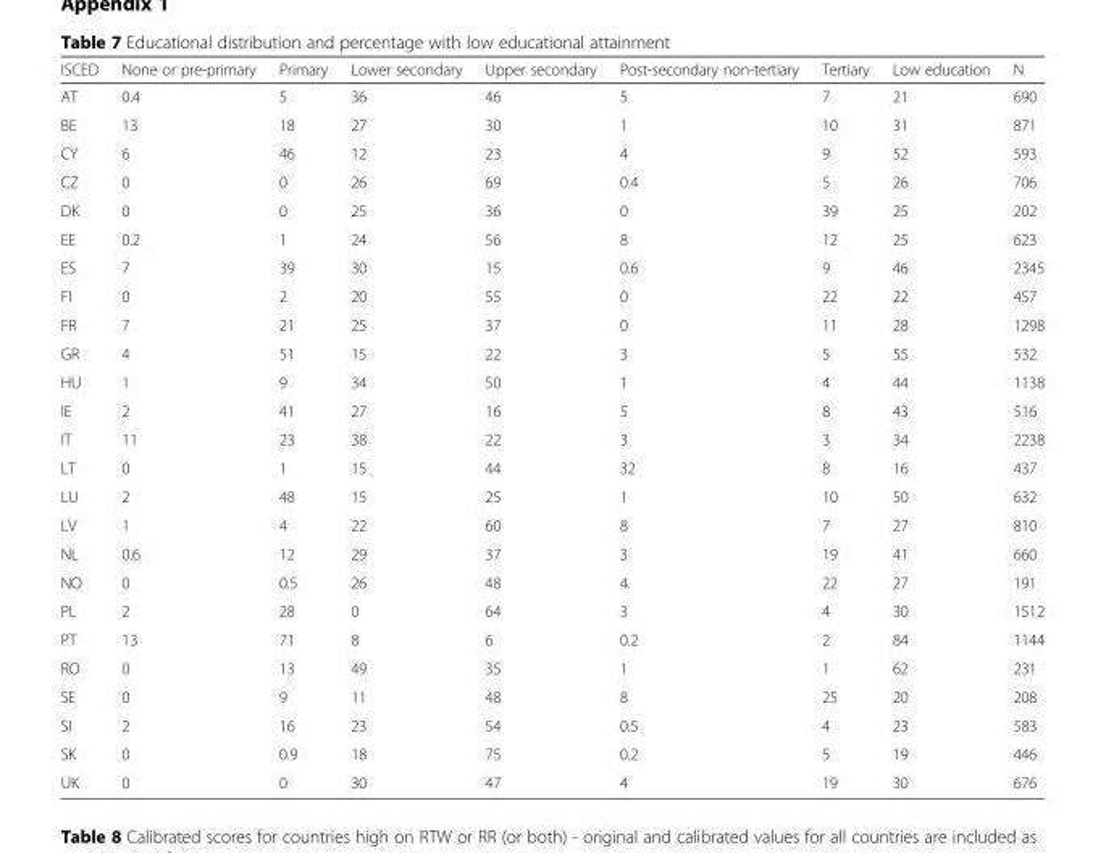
<table><thead><tr><td>ISCED</td><td>None or pre-primary</td><td>Primary</td><td>Lower secondary</td><td>Upper secondary</td><td>Post-secondary non-tertiary</td><td>Tertiary</td><td>Low education</td><td>N</td></tr></thead><tbody><tr><td>AT</td><td>0.4</td><td>5</td><td>36</td><td>46</td><td>5</td><td>7</td><td>21</td><td>690</td></tr><tr><td>BE</td><td>13</td><td>18</td><td>27</td><td>30</td><td>1</td><td>10</td><td>31</td><td>871</td></tr><tr><td>CY</td><td>6</td><td>46</td><td>12</td><td>23</td><td>4</td><td>9</td><td>52</td><td>593</td></tr><tr><td>CZ</td><td>0</td><td>0</td><td>26</td><td>69</td><td>0.4</td><td>5</td><td>26</td><td>706</td></tr><tr><td>DK</td><td>0</td><td>0</td><td>25</td><td>36</td><td>0</td><td>39</td><td>25</td><td>202</td></tr><tr><td>EE</td><td>0.2</td><td>1</td><td>24</td><td>56</td><td>8</td><td>12</td><td>25</td><td>623</td></tr><tr><td>ES</td><td>7</td><td>39</td><td>30</td><td>15</td><td>0.6</td><td>9</td><td>46</td><td>2345</td></tr><tr><td>FI</td><td>0</td><td>2</td><td>20</td><td>55</td><td>0</td><td>22</td><td>22</td><td>457</td></tr><tr><td>FR</td><td>7</td><td>21</td><td>25</td><td>37</td><td>0</td><td>11</td><td>28</td><td>1298</td></tr><tr><td>GR</td><td>4</td><td>51</td><td>15</td><td>22</td><td>3</td><td>5</td><td>55</td><td>532</td></tr><tr><td>HU</td><td>1</td><td>9</td><td>34</td><td>50</td><td>1</td><td>4</td><td>44</td><td>1138</td></tr><tr><td>IE</td><td>2</td><td>41</td><td>27</td><td>16</td><td>5</td><td>8</td><td>43</td><td>516</td></tr><tr><td>IT</td><td>11</td><td>23</td><td>38</td><td>22</td><td>3</td><td>3</td><td>34</td><td>2238</td></tr><tr><td>LT</td><td>0</td><td>1</td><td>15</td><td>44</td><td>32</td><td>8</td><td>16</td><td>437</td></tr><tr><td>LU</td><td>2</td><td>48</td><td>15</td><td>25</td><td>1</td><td>10</td><td>50</td><td>632</td></tr><tr><td>LV</td><td>1</td><td>4</td><td>22</td><td>60</td><td>8</td><td>7</td><td>27</td><td>810</td></tr><tr><td>NL</td><td>0.6</td><td>12</td><td>29</td><td>37</td><td>3</td><td>19</td><td>41</td><td>660</td></tr><tr><td>NO</td><td>0</td><td>0.5</td><td>26</td><td>48</td><td>4</td><td>22</td><td>27</td><td>191</td></tr><tr><td>PL</td><td>2</td><td>28</td><td>0</td><td>64</td><td>3</td><td>4</td><td>30</td><td>1512</td></tr><tr><td>PT</td><td>13</td><td>71</td><td>8</td><td>6</td><td>0.2</td><td>2</td><td>84</td><td>1144</td></tr><tr><td>RO</td><td>0</td><td>13</td><td>49</td><td>35</td><td>1</td><td>1</td><td>62</td><td>231</td></tr><tr><td>SE</td><td>0</td><td>9</td><td>11</td><td>48</td><td>8</td><td>25</td><td>20</td><td>208</td></tr><tr><td>SI</td><td>2</td><td>16</td><td>23</td><td>54</td><td>0.5</td><td>4</td><td>23</td><td>583</td></tr><tr><td>SK</td><td>0</td><td>0.9</td><td>18</td><td>75</td><td>0.2</td><td>5</td><td>19</td><td>446</td></tr><tr><td>UK</td><td>0</td><td>0</td><td>30</td><td>47</td><td>4</td><td>19</td><td>30</td><td>676</td></tr></tbody></table>